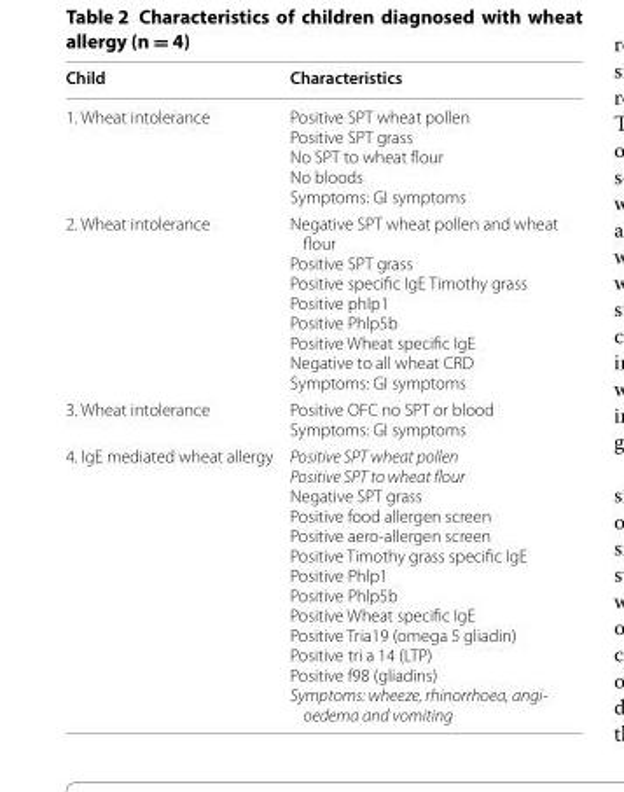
<table><thead><tr><td>Child</td><td>Characteristics</td></tr></thead><tbody><tr><td>1. Wheat intolerance</td><td>Positive SPT wheat pollen Positive SPT grass No SPT to wheat flour No bloods Symptoms: GI symptoms</td></tr><tr><td>2. Wheat intolerance</td><td>Negative SPT wheat pollen and wheat flour Positive SPT grass Positive specific IgE Timothy grass Positive phlp1 Positive Phlp5b Positive Wheat specific IgE Negative to all wheat CRD Symptoms: GI symptoms</td></tr><tr><td>3. Wheat intolerance</td><td>Positive OFC no SPT or blood Symptoms: GI symptoms</td></tr><tr><td>4. IgE mediated wheat allergy</td><td>Positive SPT wheat pollen Positive SPT to wheat flour Negative SPT grass Positive food allergen screen Positive aero-allergen screen Positive Timothy grass specific IgE Positive Phlp1 Positive Phlp5b Positive Wheat specific IgE Positive Tria19 (omega 5 gliadin) Positive tri a 14 (LTP) Positive f98 (gliadins) Symptoms: wheeze, rhinorrhoea, angi- oedema and vomiting</td></tr></tbody></table>